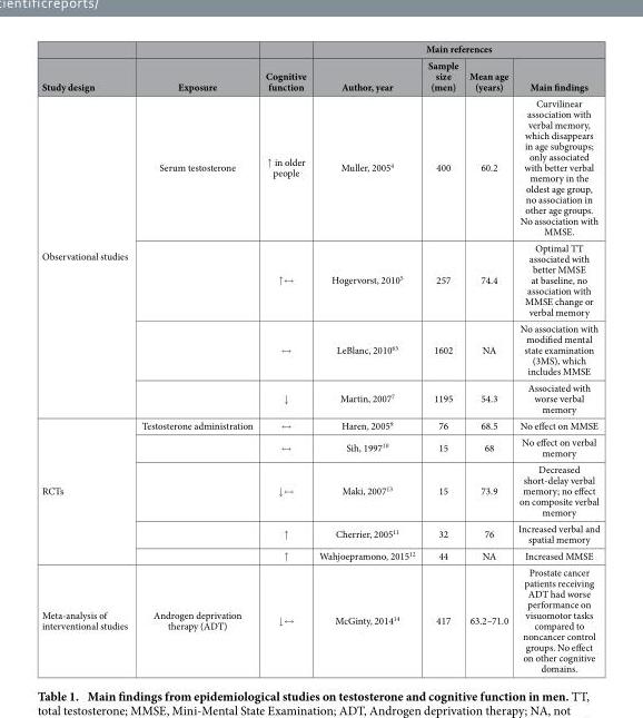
<table><thead><tr><td rowspan="2">Study design</td><td rowspan="2">Exposure</td><td rowspan="2">Cognitive function</td><td colspan="4">Main references</td></tr><tr><td>Author, year</td><td>Sample size (men)</td><td>Mean age (years)</td><td>Main findings</td></tr></thead><tbody><tr><td rowspan="4">Observational studies</td><td>Serum testosterone</td><td>↑ in older people</td><td>Muller, 2005<sup>4</sup></td><td>400</td><td>60.2</td><td>Curvilinear association with verbal memory, which disappears in age subgroups; only associated with better verbal memory in the oldest age group, no association in other age groups. No association with MMSE.</td></tr><tr><td></td><td>↑ ↔</td><td>Hogervorst, 2010<sup>5</sup></td><td>257</td><td>74.4</td><td>Optimal TT associated with better MMSE at baseline, no association with MMSE change or verbal memory</td></tr><tr><td></td><td>↔</td><td>LeBlanc, 2010<sup>63</sup></td><td>1602</td><td>NA</td><td>No association with modified mental state examination (3MS), which includes MMSE</td></tr><tr><td></td><td>↓</td><td>Martin, 2007<sup>7</sup></td><td>1195</td><td>54.3</td><td>Associated with worse verbal memory</td></tr><tr><td rowspan="5">RCTs</td><td>Testosterone administration</td><td>↔</td><td>Haren, 2005<sup>9</sup></td><td>76</td><td>68.5</td><td>No effect on MMSE</td></tr><tr><td></td><td>↔</td><td>Sih, 1997<sup>10</sup></td><td>15</td><td>68</td><td>No effect on verbal memory</td></tr><tr><td></td><td>↓ ↔</td><td>Maki, 2007<sup>13</sup></td><td>15</td><td>73.9</td><td>Decreased short-delay verbal memory; no effect on composite verbal memory</td></tr><tr><td></td><td>↑</td><td>Cherrier, 2005<sup>11</sup></td><td>32</td><td>76</td><td>Increased verbal and spatial memory</td></tr><tr><td></td><td>↑</td><td>Wahjoepramono, 2015<sup>12</sup></td><td>44</td><td>NA</td><td>Increased MMSE</td></tr><tr><td>Meta-analysis of interventional studies</td><td>Androgen deprivation therapy (ADT)</td><td>↓ ↔</td><td>McGinty, 2014<sup>14</sup></td><td>417</td><td>63.2–71.0</td><td>Prostate cancer patients receiving ADT had worse performance on visuomotor tasks compared to noncancer control groups. No effect on other cognitive domains.</td></tr></tbody></table>